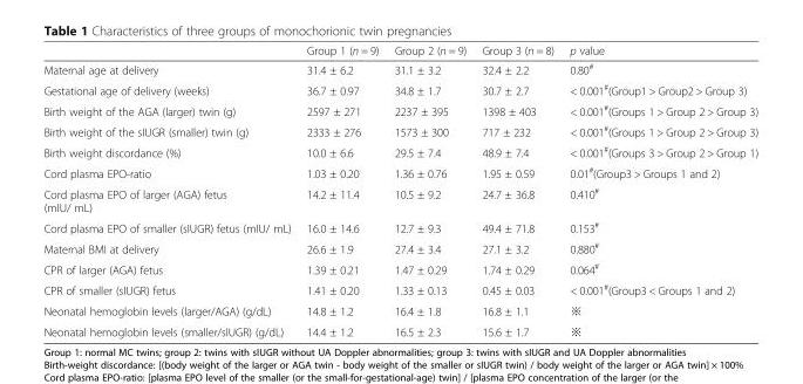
<table><thead><tr><td></td><td>Group 1 (n = 9)</td><td>Group 2 (n = 9)</td><td>Group 3 (n = 8)</td><td>p value</td></tr></thead><tbody><tr><td>Maternal age at delivery</td><td>31.4 ± 6.2</td><td>31.1 ± 3.2</td><td>32.4 ± 2.2</td><td>0.80<sup>#</sup></td></tr><tr><td>Gestational age of delivery (weeks)</td><td>36.7 ± 0.97</td><td>34.8 ± 1.7</td><td>30.7 ± 2.7</td><td>&lt; 0.001<sup>#</sup>(Group1 &gt; Group2 &gt; Group 3)</td></tr><tr><td>Birth weight of the AGA (larger) twin (g)</td><td>2597 ± 271</td><td>2237 ± 395</td><td>1398 ± 403</td><td>&lt; 0.001<sup>#</sup>(Groups 1 &gt; Group 2 &gt; Group 3)</td></tr><tr><td>Birth weight of the sIUGR (smaller) twin (g)</td><td>2333 ± 276</td><td>1573 ± 300</td><td>717 ± 232</td><td>&lt; 0.001<sup>#</sup>(Groups 1 &gt; Group 2 &gt; Group 3)</td></tr><tr><td>Birth weight discordance (%)</td><td>10.0 ± 6.6</td><td>29.5 ± 7.4</td><td>48.9 ± 7.4</td><td>&lt; 0.001<sup>#</sup>(Groups 3 &gt; Group 2 &gt; Group 1)</td></tr><tr><td>Cord plasma EPO-ratio</td><td>1.03 ± 0.20</td><td>1.36 ± 0.76</td><td>1.95 ± 0.59</td><td>0.01<sup>#</sup>(Group3 &gt; Groups 1 and 2)</td></tr><tr><td>Cord plasma EPO of larger (AGA) fetus (mIU/ mL)</td><td>14.2 ± 11.4</td><td>10.5 ± 9.2</td><td>24.7 ± 36.8</td><td>0.410<sup>#</sup></td></tr><tr><td>Cord plasma EPO of smaller (sIUGR) fetus (mIU/ mL)</td><td>16.0 ± 14.6</td><td>12.7 ± 9.3</td><td>49.4 ± 71.8</td><td>0.153<sup>#</sup></td></tr><tr><td>Maternal BMI at delivery</td><td>26.6 ± 1.9</td><td>27.4 ± 3.4</td><td>27.1 ± 3.2</td><td>0.880<sup>#</sup></td></tr><tr><td>CPR of larger (AGA) fetus</td><td>1.39 ± 0.21</td><td>1.47 ± 0.29</td><td>1.74 ± 0.29</td><td>0.064<sup>#</sup></td></tr><tr><td>CPR of smaller (sIUGR) fetus</td><td>1.41 ± 0.20</td><td>1.33 ± 0.13</td><td>0.45 ± 0.03</td><td>&lt; 0.001<sup>#</sup>(Group3 &lt; Groups 1 and 2)</td></tr><tr><td>Neonatal hemoglobin levels (larger/AGA) (g/dL)</td><td>14.8 ± 1.2</td><td>16.4 ± 1.8</td><td>16.8 ± 1.1</td><td>※</td></tr><tr><td>Neonatal hemoglobin levels (smaller/sIUGR) (g/dL)</td><td>14.4 ± 1.2</td><td>16.5 ± 2.3</td><td>15.6 ± 1.7</td><td>※</td></tr></tbody></table>